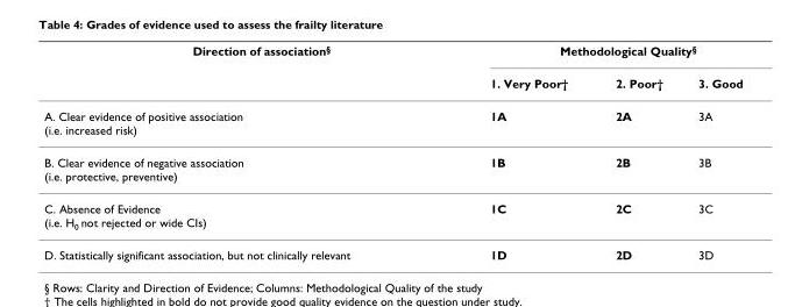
<table><thead><tr><td rowspan="2">Direction of association<sup>§</sup></td><td colspan="3">Methodological Quality<sup>§</sup></td></tr><tr><td>1. Very Poor†</td><td>2. Poor†</td><td>3. Good</td></tr></thead><tbody><tr><td>A. Clear evidence of positive association (i.e. increased risk)</td><td>1A</td><td>2A</td><td>3A</td></tr><tr><td>B. Clear evidence of negative association (i.e. protective, preventive)</td><td>1B</td><td>2B</td><td>3B</td></tr><tr><td>C. Absence of Evidence (i.e. H<sub>0</sub> not rejected or wide CIs)</td><td>1C</td><td>2C</td><td>3C</td></tr><tr><td>D. Statistically significant association, but not clinically relevant</td><td>1D</td><td>2D</td><td>3D</td></tr></tbody></table>